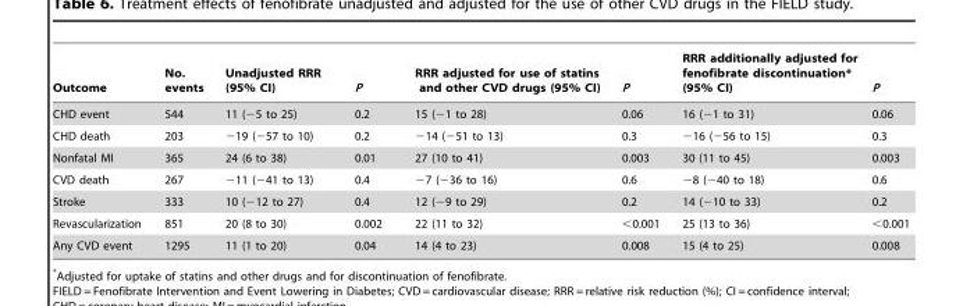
<table><thead><tr><td>Outcome</td><td>No. events</td><td>Unadjusted RRR (95% CI)</td><td>P</td><td>RRR adjusted for use of statins and other CVD drugs (95% CI)</td><td>P</td><td>RRR additionally adjusted for fenofibrate discontinuation* (95% CI)</td><td>P</td></tr></thead><tbody><tr><td>CHD event</td><td>544</td><td>11 (−5 to 25)</td><td>0.2</td><td>15 (−1 to 28)</td><td>0.06</td><td>16 (−1 to 31)</td><td>0.06</td></tr><tr><td>CHD death</td><td>203</td><td>−19 (−57 to 10)</td><td>0.2</td><td>−14 (−51 to 13)</td><td>0.3</td><td>−16 (−56 to 15)</td><td>0.3</td></tr><tr><td>Nonfatal MI</td><td>365</td><td>24 (6 to 38)</td><td>0.01</td><td>27 (10 to 41)</td><td>0.003</td><td>30 (11 to 45)</td><td>0.003</td></tr><tr><td>CVD death</td><td>267</td><td>−11 (−41 to 13)</td><td>0.4</td><td>−7 (−36 to 16)</td><td>0.6</td><td>−8 (−40 to 18)</td><td>0.6</td></tr><tr><td>Stroke</td><td>333</td><td>10 (−12 to 27)</td><td>0.4</td><td>12 (−9 to 29)</td><td>0.2</td><td>14 (−10 to 33)</td><td>0.2</td></tr><tr><td>Revascularization</td><td>851</td><td>20 (8 to 30)</td><td>0.002</td><td>22 (11 to 32)</td><td>&lt;0.001</td><td>25 (13 to 36)</td><td>&lt;0.001</td></tr><tr><td>Any CVD event</td><td>1295</td><td>11 (1 to 20)</td><td>0.04</td><td>14 (4 to 23)</td><td>0.008</td><td>15 (4 to 25)</td><td>0.008</td></tr></tbody></table>